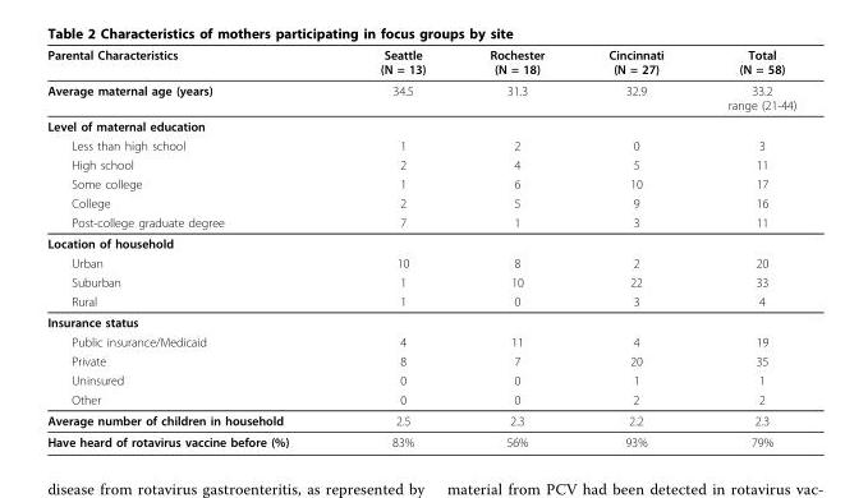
<table><thead><tr><td>Parental Characteristics</td><td>Seattle (N = 13)</td><td>Rochester (N = 18)</td><td>Cincinnati (N = 27)</td><td>Total (N = 58)</td></tr></thead><tbody><tr><td>Average maternal age (years)</td><td>34.5</td><td>31.3</td><td>32.9</td><td>33.2 range (21-44)</td></tr><tr><td colspan="5">Level of maternal education</td></tr><tr><td>Less than high school</td><td>1</td><td>2</td><td>0</td><td>3</td></tr><tr><td>High school</td><td>2</td><td>4</td><td>5</td><td>11</td></tr><tr><td>Some college</td><td>1</td><td>6</td><td>10</td><td>17</td></tr><tr><td>College</td><td>2</td><td>5</td><td>9</td><td>16</td></tr><tr><td>Post-college graduate degree</td><td>7</td><td>1</td><td>3</td><td>11</td></tr><tr><td colspan="5">Location of household</td></tr><tr><td>Urban</td><td>10</td><td>8</td><td>2</td><td>20</td></tr><tr><td>Suburban</td><td>1</td><td>10</td><td>22</td><td>33</td></tr><tr><td>Rural</td><td>1</td><td>0</td><td>3</td><td>4</td></tr><tr><td colspan="5">Insurance status</td></tr><tr><td>Public insurance/Medicaid</td><td>4</td><td>11</td><td>4</td><td>19</td></tr><tr><td>Private</td><td>8</td><td>7</td><td>20</td><td>35</td></tr><tr><td>Uninsured</td><td>0</td><td>0</td><td>1</td><td>1</td></tr><tr><td>Other</td><td>0</td><td>0</td><td>2</td><td>2</td></tr><tr><td>Average number of children in household</td><td>2.5</td><td>2.3</td><td>2.2</td><td>2.3</td></tr><tr><td>Have heard of rotavirus vaccine before (%)</td><td>83%</td><td>56%</td><td>93%</td><td>79%</td></tr></tbody></table>